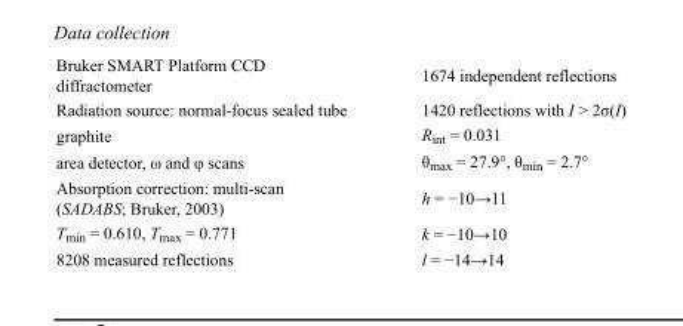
<table><tbody><tr><td>Bruker SMART Platform CCD diffractometer</td><td>1674 independent reflections</td></tr><tr><td>Radiation source: normal-focus sealed tube</td><td>1420 reflections with I &gt; 2σ(I)</td></tr><tr><td>graphite</td><td>R<sub>int</sub> = 0.031</td></tr><tr><td>area detector, ω and φ scans</td><td>θ<sub>max</sub> = 27.9°, θ<sub>min</sub> = 2.7°</td></tr><tr><td>Absorption correction: multi-scan (SADABS; Bruker, 2003)</td><td>h = −10→11</td></tr><tr><td>T<sub>min</sub> = 0.610, T<sub>max</sub> = 0.771</td><td>k = −10→10</td></tr><tr><td>8208 measured reflections</td><td>l = −14→14</td></tr></tbody></table>